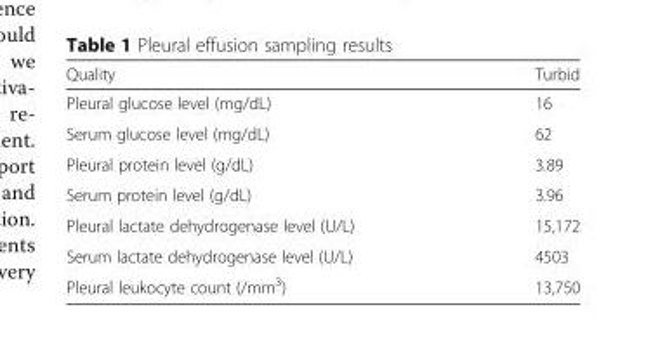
<table><thead><tr><td>Quality</td><td>Turbid</td></tr></thead><tbody><tr><td>Pleural glucose level (mg/dL)</td><td>16</td></tr><tr><td>Serum glucose level (mg/dL)</td><td>62</td></tr><tr><td>Pleural protein level (g/dL)</td><td>3.89</td></tr><tr><td>Serum protein level (g/dL)</td><td>3.96</td></tr><tr><td>Pleural lactate dehydrogenase level (U/L)</td><td>15,172</td></tr><tr><td>Serum lactate dehydrogenase level (U/L)</td><td>4503</td></tr><tr><td>Pleural leukocyte count (/mm<sup>3</sup>)</td><td>13,750</td></tr></tbody></table>